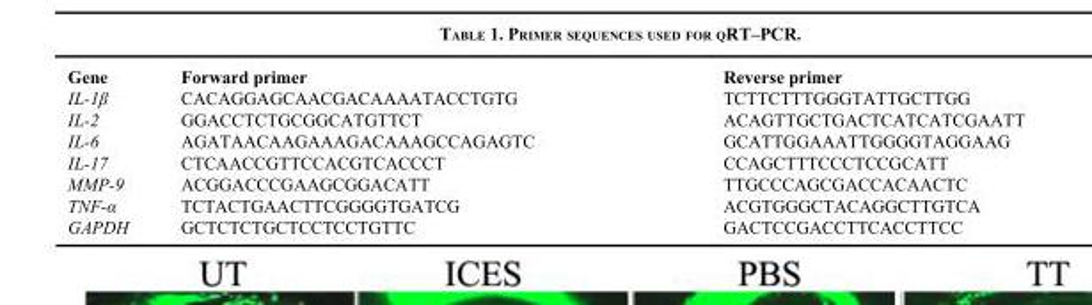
<table><thead><tr><td>Gene</td><td>Forward primer</td><td>Reverse primer</td></tr></thead><tbody><tr><td>IL-1β</td><td>CACAGGAGCAACGACAAAATACCTGTG</td><td>TCTTCTTTGGGTATTGCTTGG</td></tr><tr><td>IL-2</td><td>GGACCTCTGCGGCATGTTCT</td><td>ACAGTTGCTGACTCATCATCGAATT</td></tr><tr><td>IL-6</td><td>AGATAACAAGAAAGACAAAGCCAGAGTC</td><td>GCATTGGAAATTGGGGTAGGAAG</td></tr><tr><td>IL-17</td><td>CTCAACCGTTCCACGTCACCCT</td><td>CCAGCTTTCCCTCCGCATT</td></tr><tr><td>MMP-9</td><td>ACGGACCCGAAGCGGACATT</td><td>TTGCCCAGCGACCACAACTC</td></tr><tr><td>TNF-α</td><td>TCTACTGAACTTCGGGGTGATCG</td><td>ACGTGGGCTACAGGCTTGTCA</td></tr><tr><td>GAPDH</td><td>GCTCTCTGCTCCTCCTGTTC</td><td>GACTCCGACCTTCACCTTCC</td></tr></tbody></table>